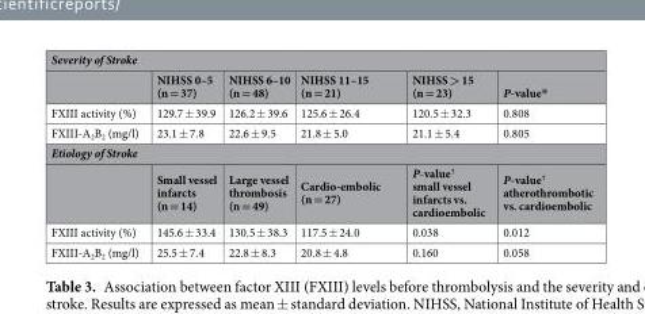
<table><thead><tr><td colspan="6">Severity of Stroke</td></tr><tr><td></td><td>NIHSS 0–5 (n = 37)</td><td>NIHSS 6–10 (n = 48)</td><td>NIHSS 11–15 (n = 21)</td><td>NIHSS &gt; 15 (n = 23)</td><td>P-value*</td></tr></thead><tbody><tr><td>FXIII activity (%)</td><td>129.7 ± 39.9</td><td>126.2 ± 39.6</td><td>125.6 ± 26.4</td><td>120.5 ± 32.3</td><td>0.808</td></tr><tr><td>FXIII-A<sub>2</sub>B<sub>2</sub> (mg/l)</td><td>23.1 ± 7.8</td><td>22.6 ± 9.5</td><td>21.8 ± 5.0</td><td>21.1 ± 5.4</td><td>0.805</td></tr><tr><td colspan="6">Etiology of Stroke</td></tr><tr><td></td><td>Small vessel infarcts (n = 14)</td><td>Large vessel thrombosis (n = 49)</td><td>Cardio-embolic (n = 27)</td><td>P-value<sup>†</sup> small vessel infarcts vs. cardioembolic</td><td>P-value<sup>†</sup> atherothrombotic vs. cardioembolic</td></tr><tr><td>FXIII activity (%)</td><td>145.6 ± 33.4</td><td>130.5 ± 38.3</td><td>117.5 ± 24.0</td><td>0.038</td><td>0.012</td></tr><tr><td>FXIII-A<sub>2</sub>B<sub>2</sub> (mg/l)</td><td>25.5 ± 7.4</td><td>22.8 ± 8.3</td><td>20.8 ± 4.8</td><td>0.160</td><td>0.058</td></tr></tbody></table>